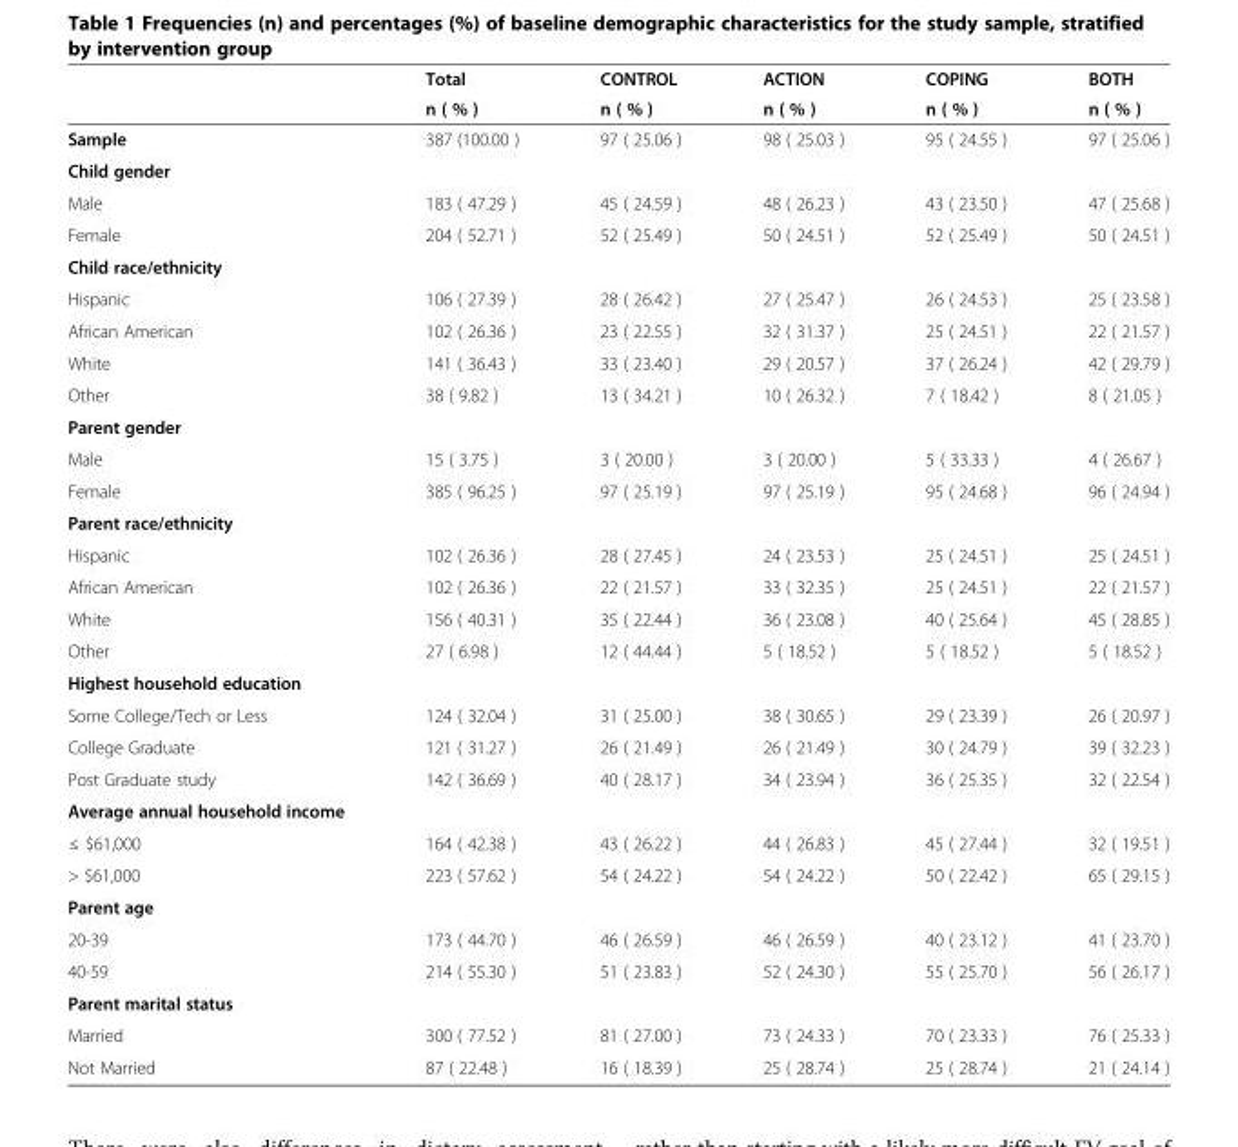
<table><thead><tr><td rowspan="2"></td><td rowspan="2">Total n ( % )</td><td rowspan="2">CONTROL n ( % )</td><td rowspan="2">ACTION n ( % )</td><td rowspan="2">COPING n ( % )</td><td rowspan="2">BOTH n ( % )</td></tr><tr></tr></thead><tbody><tr><td>Sample</td><td>387 (100.00 )</td><td>97 ( 25.06 )</td><td>98 ( 25.03 )</td><td>95 ( 24.55 )</td><td>97 ( 25.06 )</td></tr><tr><td colspan="6">Child gender</td></tr><tr><td>Male</td><td>183 ( 47.29 )</td><td>45 ( 24.59 )</td><td>48 ( 26.23 )</td><td>43 ( 23.50 )</td><td>47 ( 25.68 )</td></tr><tr><td>Female</td><td>204 ( 52.71 )</td><td>52 ( 25.49 )</td><td>50 ( 24.51 )</td><td>52 ( 25.49 )</td><td>50 ( 24.51 )</td></tr><tr><td colspan="6">Child race/ethnicity</td></tr><tr><td>Hispanic</td><td>106 ( 27.39 )</td><td>28 ( 26.42 )</td><td>27 ( 25.47 )</td><td>26 ( 24.53 )</td><td>25 ( 23.58 )</td></tr><tr><td>African American</td><td>102 ( 26.36 )</td><td>23 ( 22.55 )</td><td>32 ( 31.37 )</td><td>25 ( 24.51 )</td><td>22 ( 21.57 )</td></tr><tr><td>White</td><td>141 ( 36.43 )</td><td>33 ( 23.40 )</td><td>29 ( 20.57 )</td><td>37 ( 26.24 )</td><td>42 ( 29.79 )</td></tr><tr><td>Other</td><td>38 ( 9.82 )</td><td>13 ( 34.21 )</td><td>10 ( 26.32 )</td><td>7 ( 18.42 )</td><td>8 ( 21.05 )</td></tr><tr><td colspan="6">Parent gender</td></tr><tr><td>Male</td><td>15 ( 3.75 )</td><td>3 ( 20.00 )</td><td>3 ( 20.00 )</td><td>5 ( 33.33 )</td><td>4 ( 26.67 )</td></tr><tr><td>Female</td><td>385 ( 96.25 )</td><td>97 ( 25.19 )</td><td>97 ( 25.19 )</td><td>95 ( 24.68 )</td><td>96 ( 24.94 )</td></tr><tr><td colspan="6">Parent race/ethnicity</td></tr><tr><td>Hispanic</td><td>102 ( 26.36 )</td><td>28 ( 27.45 )</td><td>24 ( 23.53 )</td><td>25 ( 24.51 )</td><td>25 ( 24.51 )</td></tr><tr><td>African American</td><td>102 ( 26.36 )</td><td>22 ( 21.57 )</td><td>33 ( 32.35 )</td><td>25 ( 24.51 )</td><td>22 ( 21.57 )</td></tr><tr><td>White</td><td>156 ( 40.31 )</td><td>35 ( 22.44 )</td><td>36 ( 23.08 )</td><td>40 ( 25.64 )</td><td>45 ( 28.85 )</td></tr><tr><td>Other</td><td>27 ( 6.98 )</td><td>12 ( 44.44 )</td><td>5 ( 18.52 )</td><td>5 ( 18.52 )</td><td>5 ( 18.52 )</td></tr><tr><td colspan="6">Highest household education</td></tr><tr><td>Some College/Tech or Less</td><td>124 ( 32.04 )</td><td>31 ( 25.00 )</td><td>38 ( 30.65 )</td><td>29 ( 23.39 )</td><td>26 ( 20.97 )</td></tr><tr><td>College Graduate</td><td>121 ( 31.27 )</td><td>26 ( 21.49 )</td><td>26 ( 21.49 )</td><td>30 ( 24.79 )</td><td>39 ( 32.23 )</td></tr><tr><td>Post Graduate study</td><td>142 ( 36.69 )</td><td>40 ( 28.17 )</td><td>34 ( 23.94 )</td><td>36 ( 25.35 )</td><td>32 ( 22.54 )</td></tr><tr><td colspan="6">Average annual household income</td></tr><tr><td>≤ $61,000</td><td>164 ( 42.38 )</td><td>43 ( 26.22 )</td><td>44 ( 26.83 )</td><td>45 ( 27.44 )</td><td>32 ( 19.51 )</td></tr><tr><td>&gt; $61,000</td><td>223 ( 57.62 )</td><td>54 ( 24.22 )</td><td>54 ( 24.22 )</td><td>50 ( 22.42 )</td><td>65 ( 29.15 )</td></tr><tr><td colspan="6">Parent age</td></tr><tr><td>20-39</td><td>173 ( 44.70 )</td><td>46 ( 26.59 )</td><td>46 ( 26.59 )</td><td>40 ( 23.12 )</td><td>41 ( 23.70 )</td></tr><tr><td>40-59</td><td>214 ( 55.30 )</td><td>51 ( 23.83 )</td><td>52 ( 24.30 )</td><td>55 ( 25.70 )</td><td>56 ( 26.17 )</td></tr><tr><td colspan="6">Parent marital status</td></tr><tr><td>Married</td><td>300 ( 77.52 )</td><td>81 ( 27.00 )</td><td>73 ( 24.33 )</td><td>70 ( 23.33 )</td><td>76 ( 25.33 )</td></tr><tr><td>Not Married</td><td>87 ( 22.48 )</td><td>16 ( 18.39 )</td><td>25 ( 28.74 )</td><td>25 ( 28.74 )</td><td>21 ( 24.14 )</td></tr></tbody></table>